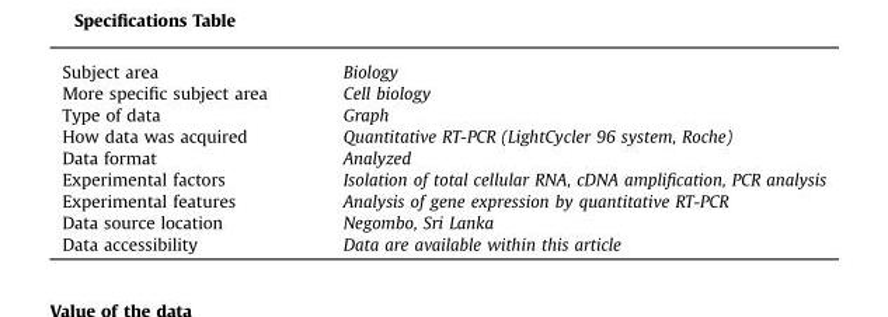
<table><tbody><tr><td>Subject area</td><td>Biology</td></tr><tr><td>More specific subject area</td><td>Cell biology</td></tr><tr><td>Type of data</td><td>Graph</td></tr><tr><td>How data was acquired</td><td>Quantitative RT-PCR (LightCycler 96 system, Roche)</td></tr><tr><td>Data format</td><td>Analyzed</td></tr><tr><td>Experimental factors</td><td>Isolation of total cellular RNA, cDNA amplification, PCR analysis</td></tr><tr><td>Experimental features</td><td>Analysis of gene expression by quantitative RT-PCR</td></tr><tr><td>Data source location</td><td>Negombo, Sri Lanka</td></tr><tr><td>Data accessibility</td><td>Data are available within this article</td></tr></tbody></table>